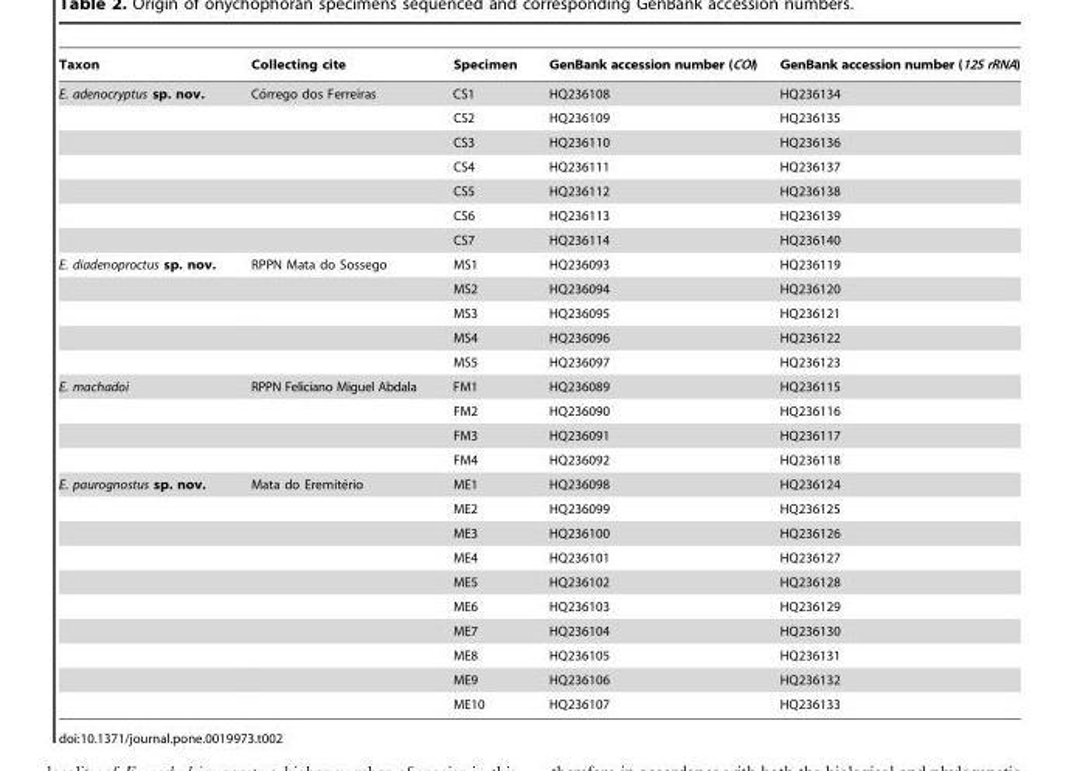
<table><thead><tr><td>Taxon</td><td>Collecting cite</td><td>Specimen</td><td>GenBank accession number (COI)</td><td>GenBank accession number (12S rRNA)</td></tr></thead><tbody><tr><td rowspan="7">E. adenocryptus sp. nov.</td><td>Co´rrego dos Ferreiras</td><td>CS1</td><td>HQ236108</td><td>HQ236134</td></tr><tr><td></td><td>CS2</td><td>HQ236109</td><td>HQ236135</td></tr><tr><td></td><td>CS3</td><td>HQ236110</td><td>HQ236136</td></tr><tr><td></td><td>CS4</td><td>HQ236111</td><td>HQ236137</td></tr><tr><td></td><td>CS5</td><td>HQ236112</td><td>HQ236138</td></tr><tr><td></td><td>CS6</td><td>HQ236113</td><td>HQ236139</td></tr><tr><td></td><td>CS7</td><td>HQ236114</td><td>HQ236140</td></tr><tr><td rowspan="5">E. diadenoproctus sp. nov.</td><td>RPPN Mata do Sossego</td><td>MS1</td><td>HQ236093</td><td>HQ236119</td></tr><tr><td></td><td>MS2</td><td>HQ236094</td><td>HQ236120</td></tr><tr><td></td><td>MS3</td><td>HQ236095</td><td>HQ236121</td></tr><tr><td></td><td>MS4</td><td>HQ236096</td><td>HQ236122</td></tr><tr><td></td><td>MS5</td><td>HQ236097</td><td>HQ236123</td></tr><tr><td rowspan="4">E. machadoi</td><td>RPPN Feliciano Miguel Abdala</td><td>FM1</td><td>HQ236089</td><td>HQ236115</td></tr><tr><td></td><td>FM2</td><td>HQ236090</td><td>HQ236116</td></tr><tr><td></td><td>FM3</td><td>HQ236091</td><td>HQ236117</td></tr><tr><td></td><td>FM4</td><td>HQ236092</td><td>HQ236118</td></tr><tr><td rowspan="10">E. paurognostus sp. nov.</td><td>Mata do Eremite´rio</td><td>ME1</td><td>HQ236098</td><td>HQ236124</td></tr><tr><td></td><td>ME2</td><td>HQ236099</td><td>HQ236125</td></tr><tr><td></td><td>ME3</td><td>HQ236100</td><td>HQ236126</td></tr><tr><td></td><td>ME4</td><td>HQ236101</td><td>HQ236127</td></tr><tr><td></td><td>ME5</td><td>HQ236102</td><td>HQ236128</td></tr><tr><td></td><td>ME6</td><td>HQ236103</td><td>HQ236129</td></tr><tr><td></td><td>ME7</td><td>HQ236104</td><td>HQ236130</td></tr><tr><td></td><td>ME8</td><td>HQ236105</td><td>HQ236131</td></tr><tr><td></td><td>ME9</td><td>HQ236106</td><td>HQ236132</td></tr><tr><td></td><td>ME10</td><td>HQ236107</td><td>HQ236133</td></tr></tbody></table>